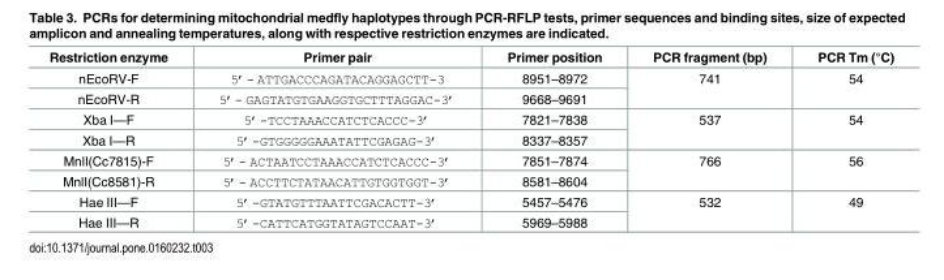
<table><thead><tr><td>Restriction enzyme</td><td>Primer pair</td><td>Primer position</td><td>PCR fragment (bp)</td><td>PCR Tm (°C)</td></tr></thead><tbody><tr><td>nEcoRV-F</td><td>5’- ATTGACCCAGATACAGGAGCTT-3</td><td>8951–8972</td><td rowspan="2">741</td><td rowspan="2">54</td></tr><tr><td>nEcoRV-R</td><td>5’- GAGTATGTGAAGGTGCTTTAGGAC-3’</td><td>9668–9691</td></tr><tr><td>Xba I—F</td><td>5’-TCCTAAACCATCTCACCC-3’</td><td>7821–7838</td><td rowspan="2">537</td><td rowspan="2">54</td></tr><tr><td>Xba I—R</td><td>5’-GTGGGGGAAATATTCGAGAG-3’</td><td>8337–8357</td></tr><tr><td>MnlI(Cc7815)-F</td><td>5’- ACTAATCCTAAACCATCTCACCC-3’</td><td>7851–7874</td><td rowspan="2">766</td><td rowspan="2">56</td></tr><tr><td>MnlI(Cc8581)-R</td><td>5’- ACCTTCTATAACATTGTGGTGGT-3’</td><td>8581–8604</td></tr><tr><td>Hae III—F</td><td>5’-GTATGTTTAATTCGACACTT-3’</td><td>5457–5476</td><td rowspan="2">532</td><td rowspan="2">49</td></tr><tr><td>Hae III—R</td><td>5’-CATTCATGGTATAGTCCAAT-3’</td><td>5969–5988</td></tr></tbody></table>